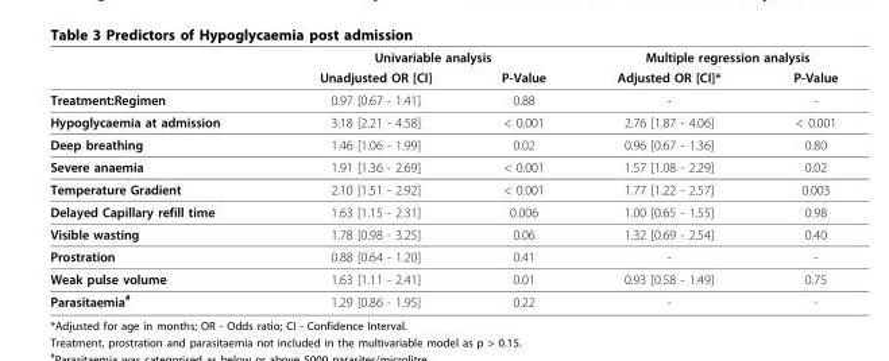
<table><thead><tr><td rowspan="2"></td><td colspan="2">Univariable analysis</td><td colspan="2">Multiple regression analysis</td></tr><tr><td>Unadjusted OR [CI]</td><td>P-Value</td><td>Adjusted OR [CI]*</td><td>P-Value</td></tr></thead><tbody><tr><td>Treatment:Regimen</td><td>0.97 [0.67 - 1.41]</td><td>0.88</td><td>-</td><td>-</td></tr><tr><td>Hypoglycaemia at admission</td><td>3.18 [2.21 - 4.58]</td><td>&lt; 0.001</td><td>2.76 [1.87 - 4.06]</td><td>&lt; 0.001</td></tr><tr><td>Deep breathing</td><td>1.46 [1.06 - 1.99]</td><td>0.02</td><td>0.96 [0.67 - 1.36]</td><td>0.80</td></tr><tr><td>Severe anaemia</td><td>1.91 [1.36 - 2.69]</td><td>&lt; 0.001</td><td>1.57 [1.08 - 2.29]</td><td>0.02</td></tr><tr><td>Temperature Gradient</td><td>2.10 [1.51 - 2.92]</td><td>&lt; 0.001</td><td>1.77 [1.22 - 2.57]</td><td>0.003</td></tr><tr><td>Delayed Capillary refill time</td><td>1.63 [1.15 - 2.31]</td><td>0.006</td><td>1.00 [0.65 - 1.55]</td><td>0.98</td></tr><tr><td>Visible wasting</td><td>1.78 [0.98 - 3.25]</td><td>0.06</td><td>1.32 [0.69 - 2.54]</td><td>0.40</td></tr><tr><td>Prostration</td><td>0.88 [0.64 - 1.20]</td><td>0.41</td><td>-</td><td>-</td></tr><tr><td>Weak pulse volume</td><td>1.63 [1.11 - 2.41]</td><td>0.01</td><td>0.93 [0.58 - 1.49]</td><td>0.75</td></tr><tr><td>Parasitaemia<sup>#</sup></td><td>1.29 [0.86 - 1.95]</td><td>0.22</td><td>-</td><td>-</td></tr></tbody></table>